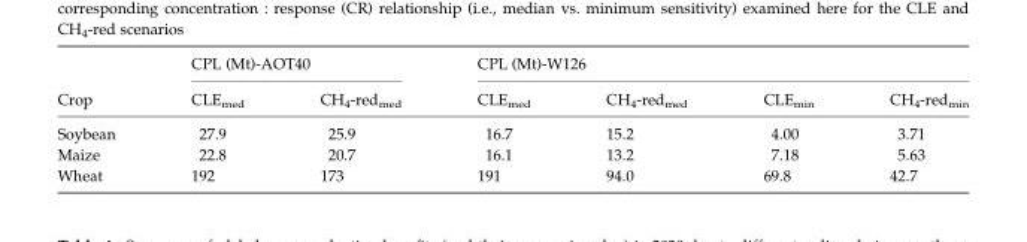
<table><thead><tr><td rowspan="2">Crop</td><td colspan="2">CPL (Mt)-AOT40</td><td colspan="4">CPL (Mt)-W126</td></tr><tr><td>CLE<sub>med</sub></td><td>CH<sub>4</sub>-red<sub>med</sub></td><td>CLE<sub>med</sub></td><td>CH<sub>4</sub>-red<sub>med</sub></td><td>CLE<sub>min</sub></td><td>CH<sub>4</sub>-red<sub>min</sub></td></tr></thead><tbody><tr><td>Soybean</td><td>27.9</td><td>25.9</td><td>16.7</td><td>15.2</td><td>4.00</td><td>3.71</td></tr><tr><td>Maize</td><td>22.8</td><td>20.7</td><td>16.1</td><td>13.2</td><td>7.18</td><td>5.63</td></tr><tr><td>Wheat</td><td>192</td><td>173</td><td>191</td><td>94.0</td><td>69.8</td><td>42.7</td></tr></tbody></table>